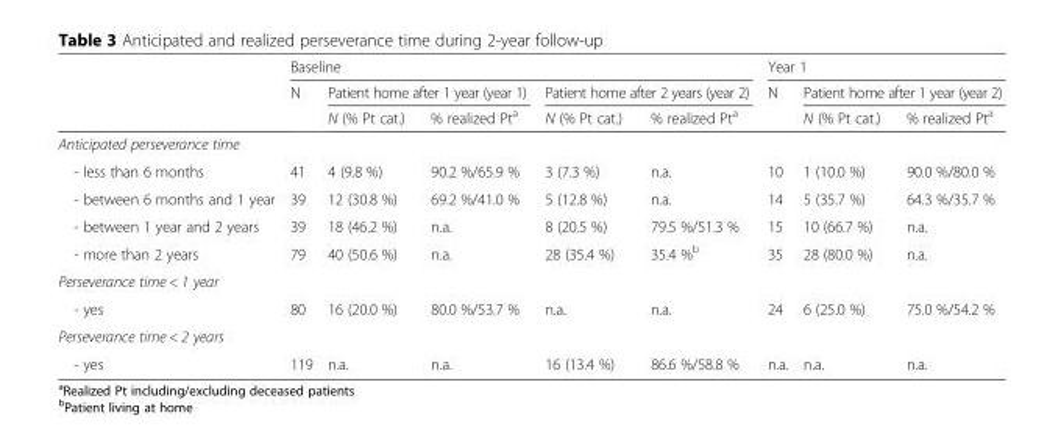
<table><thead><tr><td rowspan="3"></td><td colspan="5">Baseline</td><td colspan="3">Year 1</td></tr><tr><td rowspan="2">N</td><td colspan="2">Patient home after 1 year (year 1)</td><td colspan="2">Patient home after 2 years (year 2)</td><td rowspan="2">N</td><td colspan="2">Patient home after 1 year (year 2)</td></tr><tr><td>N (% Pt cat.)</td><td>% realized Pt<sup>a</sup></td><td>N (% Pt cat.)</td><td>% realized Pt<sup>a</sup></td><td>N (% Pt cat.)</td><td>% realized Pt<sup>a</sup></td></tr></thead><tbody><tr><td colspan="9">Anticipated perseverance time</td></tr><tr><td>- less than 6 months</td><td>41</td><td>4 (9.8 %)</td><td>90.2 %/65.9 %</td><td>3 (7.3 %)</td><td>n.a.</td><td>10</td><td>1 (10.0 %)</td><td>90.0 %/80.0 %</td></tr><tr><td>- between 6 months and 1 year</td><td>39</td><td>12 (30.8 %)</td><td>69.2 %/41.0 %</td><td>5 (12.8 %)</td><td>n.a.</td><td>14</td><td>5 (35.7 %)</td><td>64.3 %/35.7 %</td></tr><tr><td>- between 1 year and 2 years</td><td>39</td><td>18 (46.2 %)</td><td>n.a.</td><td>8 (20.5 %)</td><td>79.5 %/51.3 %</td><td>15</td><td>10 (66.7 %)</td><td>n.a.</td></tr><tr><td>- more than 2 years</td><td>79</td><td>40 (50.6 %)</td><td>n.a.</td><td>28 (35.4 %)</td><td>35.4 %<sup>b</sup></td><td>35</td><td>28 (80.0 %)</td><td>n.a.</td></tr><tr><td colspan="9">Perseverance time &lt; 1 year</td></tr><tr><td>- yes</td><td>80</td><td>16 (20.0 %)</td><td>80.0 %/53.7 %</td><td>n.a.</td><td>n.a.</td><td>24</td><td>6 (25.0 %)</td><td>75.0 %/54.2 %</td></tr><tr><td colspan="9">Perseverance time &lt; 2 years</td></tr><tr><td>- yes</td><td>119</td><td>n.a.</td><td>n.a.</td><td>16 (13.4 %)</td><td>86.6 %/58.8 %</td><td>n.a.</td><td>n.a.</td><td>n.a.</td></tr></tbody></table>